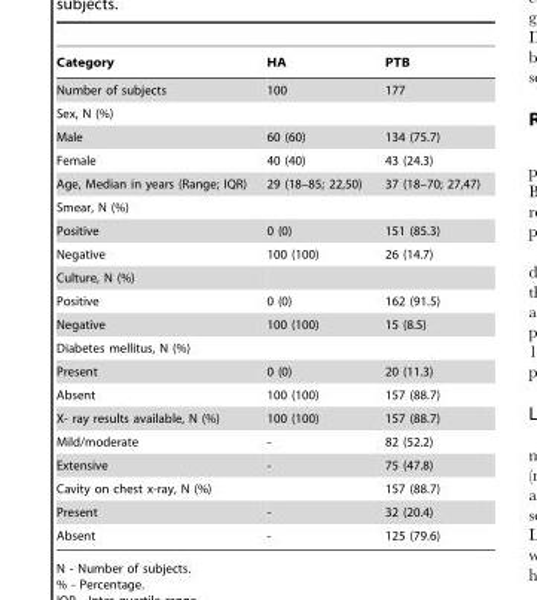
<table><thead><tr><td>Category</td><td>HA</td><td>PTB</td></tr></thead><tbody><tr><td>Number of subjects</td><td>100</td><td>177</td></tr><tr><td colspan="3">Sex, N (%)</td></tr><tr><td>Male</td><td>60 (60)</td><td>134 (75.7)</td></tr><tr><td>Female</td><td>40 (40)</td><td>43 (24.3)</td></tr><tr><td>Age, Median in years (Range; IQR)</td><td>29 (18–85; 22,50)</td><td>37 (18–70; 27,47)</td></tr><tr><td colspan="3">Smear, N (%)</td></tr><tr><td>Positive</td><td>0 (0)</td><td>151 (85.3)</td></tr><tr><td>Negative</td><td>100 (100)</td><td>26 (14.7)</td></tr><tr><td colspan="3">Culture, N (%)</td></tr><tr><td>Positive</td><td>0 (0)</td><td>162 (91.5)</td></tr><tr><td>Negative</td><td>100 (100)</td><td>15 (8.5)</td></tr><tr><td colspan="3">Diabetes mellitus, N (%)</td></tr><tr><td>Present</td><td>0 (0)</td><td>20 (11.3)</td></tr><tr><td>Absent</td><td>100 (100)</td><td>157 (88.7)</td></tr><tr><td>X- ray results available, N (%)</td><td>100 (100)</td><td>157 (88.7)</td></tr><tr><td>Mild/moderate</td><td>-</td><td>82 (52.2)</td></tr><tr><td>Extensive</td><td>-</td><td>75 (47.8)</td></tr><tr><td>Cavity on chest x-ray, N (%)</td><td></td><td>157 (88.7)</td></tr><tr><td>Present</td><td>-</td><td>32 (20.4)</td></tr><tr><td>Absent</td><td>-</td><td>125 (79.6)</td></tr></tbody></table>